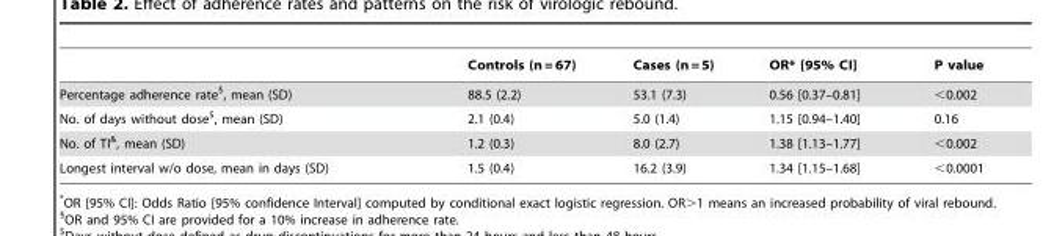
<table><thead><tr><td></td><td>Controls (n = 67)</td><td>Cases (n = 5)</td><td>OR* [95% CI]</td><td>P value</td></tr></thead><tbody><tr><td>Percentage adherence rate§, mean (SD)</td><td>88.5 (2.2)</td><td>53.1 (7.3)</td><td>0.56 [0.37–0.81]</td><td>&lt;0.002</td></tr><tr><td>No. of days without dose$, mean (SD)</td><td>2.1 (0.4)</td><td>5.0 (1.4)</td><td>1.15 [0.94–1.40]</td><td>0.16</td></tr><tr><td>No. of TI&amp;, mean (SD)</td><td>1.2 (0.3)</td><td>8.0 (2.7)</td><td>1.38 [1.13–1.77]</td><td>&lt;0.002</td></tr><tr><td>Longest interval w/o dose, mean in days (SD)</td><td>1.5 (0.4)</td><td>16.2 (3.9)</td><td>1.34 [1.15–1.68]</td><td>&lt;0.0001</td></tr></tbody></table>